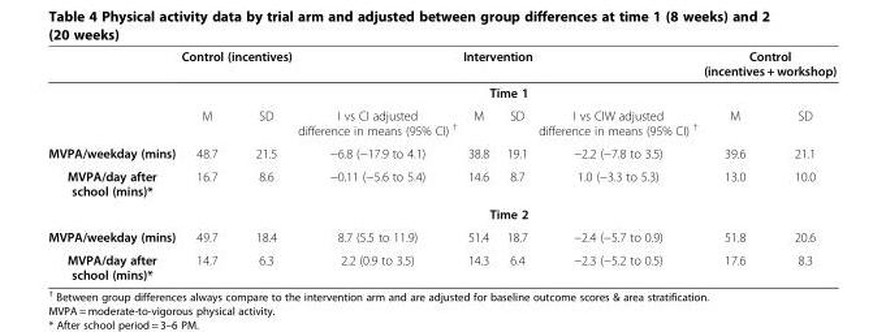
<table><thead><tr><td rowspan="3"></td><td colspan="2">Control (incentives)</td><td></td><td colspan="2">Intervention</td><td></td><td colspan="2">Control (incentives + workshop)</td></tr><tr><td colspan="8">Time 1</td></tr><tr><td>M</td><td>SD</td><td>I vs CI adjusted difference in means (95% CI) <sup>†</sup></td><td>M</td><td>SD</td><td>I vs CIW adjusted difference in means (95% CI) <sup>†</sup></td><td>M</td><td>SD</td></tr></thead><tbody><tr><td>MVPA/weekday (mins)</td><td>48.7</td><td>21.5</td><td>−6.8 (−17.9 to 4.1)</td><td>38.8</td><td>19.1</td><td>−2.2 (−7.8 to 3.5)</td><td>39.6</td><td>21.1</td></tr><tr><td rowspan="2">MVPA/day after school (mins)*</td><td>16.7</td><td>8.6</td><td>−0.11 (−5.6 to 5.4)</td><td>14.6</td><td>8.7</td><td>1.0 (−3.3 to 5.3)</td><td>13.0</td><td>10.0</td></tr><tr><td colspan="8">Time 2</td></tr><tr><td>MVPA/weekday (mins)</td><td>49.7</td><td>18.4</td><td>8.7 (5.5 to 11.9)</td><td>51.4</td><td>18.7</td><td>−2.4 (−5.7 to 0.9)</td><td>51.8</td><td>20.6</td></tr><tr><td>MVPA/day after school (mins)*</td><td>14.7</td><td>6.3</td><td>2.2 (0.9 to 3.5)</td><td>14.3</td><td>6.4</td><td>−2.3 (−5.2 to 0.5)</td><td>17.6</td><td>8.3</td></tr></tbody></table>